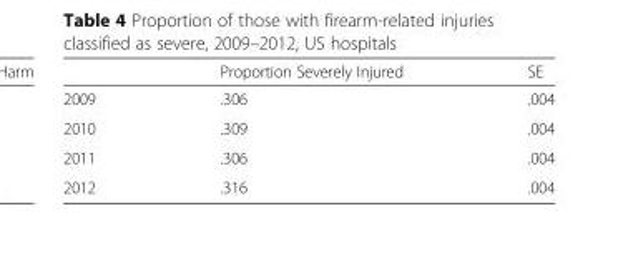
<table><thead><tr><td></td><td>Proportion Severely Injured</td><td>SE</td></tr></thead><tbody><tr><td>2009</td><td>.306</td><td>.004</td></tr><tr><td>2010</td><td>.309</td><td>.004</td></tr><tr><td>2011</td><td>.306</td><td>.004</td></tr><tr><td>2012</td><td>.316</td><td>.004</td></tr></tbody></table>